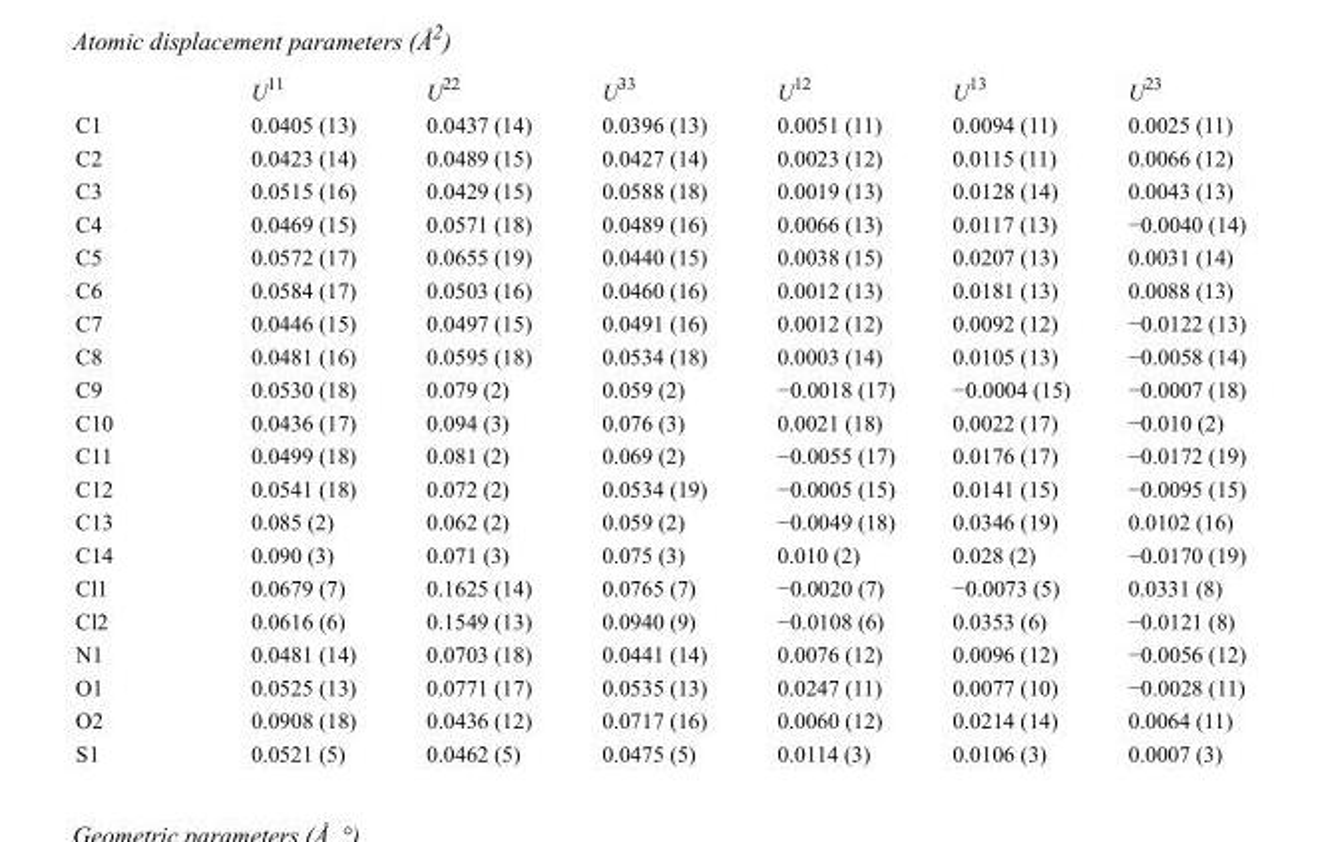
<table><thead><tr><td></td><td>U<sup>11</sup></td><td>U<sup>22</sup></td><td>U<sup>33</sup></td><td>U<sup>12</sup></td><td>U<sup>13</sup></td><td>U<sup>23</sup></td></tr></thead><tbody><tr><td>C1</td><td>0.0405 (13)</td><td>0.0437 (14)</td><td>0.0396 (13)</td><td>0.0051 (11)</td><td>0.0094 (11)</td><td>0.0025 (11)</td></tr><tr><td>C2</td><td>0.0423 (14)</td><td>0.0489 (15)</td><td>0.0427 (14)</td><td>0.0023 (12)</td><td>0.0115 (11)</td><td>0.0066 (12)</td></tr><tr><td>C3</td><td>0.0515 (16)</td><td>0.0429 (15)</td><td>0.0588 (18)</td><td>0.0019 (13)</td><td>0.0128 (14)</td><td>0.0043 (13)</td></tr><tr><td>C4</td><td>0.0469 (15)</td><td>0.0571 (18)</td><td>0.0489 (16)</td><td>0.0066 (13)</td><td>0.0117 (13)</td><td>−0.0040 (14)</td></tr><tr><td>C5</td><td>0.0572 (17)</td><td>0.0655 (19)</td><td>0.0440 (15)</td><td>0.0038 (15)</td><td>0.0207 (13)</td><td>0.0031 (14)</td></tr><tr><td>C6</td><td>0.0584 (17)</td><td>0.0503 (16)</td><td>0.0460 (16)</td><td>0.0012 (13)</td><td>0.0181 (13)</td><td>0.0088 (13)</td></tr><tr><td>C7</td><td>0.0446 (15)</td><td>0.0497 (15)</td><td>0.0491 (16)</td><td>0.0012 (12)</td><td>0.0092 (12)</td><td>−0.0122 (13)</td></tr><tr><td>C8</td><td>0.0481 (16)</td><td>0.0595 (18)</td><td>0.0534 (18)</td><td>0.0003 (14)</td><td>0.0105 (13)</td><td>−0.0058 (14)</td></tr><tr><td>C9</td><td>0.0530 (18)</td><td>0.079 (2)</td><td>0.059 (2)</td><td>−0.0018 (17)</td><td>−0.0004 (15)</td><td>−0.0007 (18)</td></tr><tr><td>C10</td><td>0.0436 (17)</td><td>0.094 (3)</td><td>0.076 (3)</td><td>0.0021 (18)</td><td>0.0022 (17)</td><td>−0.010 (2)</td></tr><tr><td>C11</td><td>0.0499 (18)</td><td>0.081 (2)</td><td>0.069 (2)</td><td>−0.0055 (17)</td><td>0.0176 (17)</td><td>−0.0172 (19)</td></tr><tr><td>C12</td><td>0.0541 (18)</td><td>0.072 (2)</td><td>0.0534 (19)</td><td>−0.0005 (15)</td><td>0.0141 (15)</td><td>−0.0095 (15)</td></tr><tr><td>C13</td><td>0.085 (2)</td><td>0.062 (2)</td><td>0.059 (2)</td><td>−0.0049 (18)</td><td>0.0346 (19)</td><td>0.0102 (16)</td></tr><tr><td>C14</td><td>0.090 (3)</td><td>0.071 (3)</td><td>0.075 (3)</td><td>0.010 (2)</td><td>0.028 (2)</td><td>−0.0170 (19)</td></tr><tr><td>Cl1</td><td>0.0679 (7)</td><td>0.1625 (14)</td><td>0.0765 (7)</td><td>−0.0020 (7)</td><td>−0.0073 (5)</td><td>0.0331 (8)</td></tr><tr><td>Cl2</td><td>0.0616 (6)</td><td>0.1549 (13)</td><td>0.0940 (9)</td><td>−0.0108 (6)</td><td>0.0353 (6)</td><td>−0.0121 (8)</td></tr><tr><td>N1</td><td>0.0481 (14)</td><td>0.0703 (18)</td><td>0.0441 (14)</td><td>0.0076 (12)</td><td>0.0096 (12)</td><td>−0.0056 (12)</td></tr><tr><td>O1</td><td>0.0525 (13)</td><td>0.0771 (17)</td><td>0.0535 (13)</td><td>0.0247 (11)</td><td>0.0077 (10)</td><td>−0.0028 (11)</td></tr><tr><td>O2</td><td>0.0908 (18)</td><td>0.0436 (12)</td><td>0.0717 (16)</td><td>0.0060 (12)</td><td>0.0214 (14)</td><td>0.0064 (11)</td></tr><tr><td>S1</td><td>0.0521 (5)</td><td>0.0462 (5)</td><td>0.0475 (5)</td><td>0.0114 (3)</td><td>0.0106 (3)</td><td>0.0007 (3)</td></tr></tbody></table>